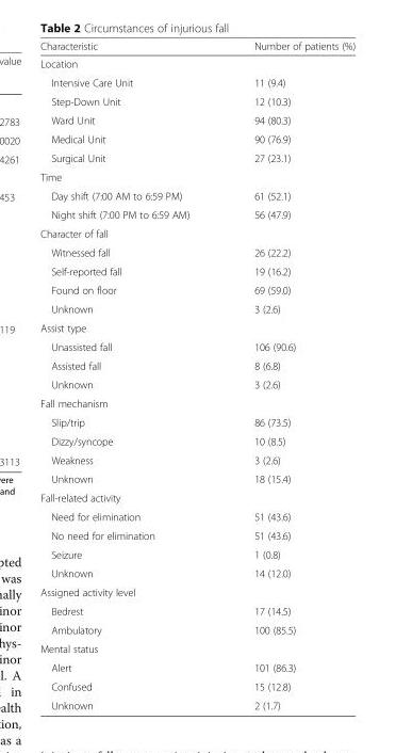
<table><thead><tr><td>Characteristic</td><td>Number of patients (%)</td></tr></thead><tbody><tr><td colspan="2">Location</td></tr><tr><td>Intensive Care Unit</td><td>11 (9.4)</td></tr><tr><td>Step-Down Unit</td><td>12 (10.3)</td></tr><tr><td>Ward Unit</td><td>94 (80.3)</td></tr><tr><td>Medical Unit</td><td>90 (76.9)</td></tr><tr><td>Surgical Unit</td><td>27 (23.1)</td></tr><tr><td colspan="2">Time</td></tr><tr><td>Day shift (7:00 AM to 6:59 PM)</td><td>61 (52.1)</td></tr><tr><td>Night shift (7:00 PM to 6:59 AM)</td><td>56 (47.9)</td></tr><tr><td colspan="2">Character of fall</td></tr><tr><td>Witnessed fall</td><td>26 (22.2)</td></tr><tr><td>Self-reported fall</td><td>19 (16.2)</td></tr><tr><td>Found on floor</td><td>69 (59.0)</td></tr><tr><td>Unknown</td><td>3 (2.6)</td></tr><tr><td colspan="2">Assist type</td></tr><tr><td>Unassisted fall</td><td>106 (90.6)</td></tr><tr><td>Assisted fall</td><td>8 (6.8)</td></tr><tr><td>Unknown</td><td>3 (2.6)</td></tr><tr><td colspan="2">Fall mechanism</td></tr><tr><td>Slip/trip</td><td>86 (73.5)</td></tr><tr><td>Dizzy/syncope</td><td>10 (8.5)</td></tr><tr><td>Weakness</td><td>3 (2.6)</td></tr><tr><td>Unknown</td><td>18 (15.4)</td></tr><tr><td colspan="2">Fall-related activity</td></tr><tr><td>Need for elimination</td><td>51 (43.6)</td></tr><tr><td>No need for elimination</td><td>51 (43.6)</td></tr><tr><td>Seizure</td><td>1 (0.8)</td></tr><tr><td>Unknown</td><td>14 (12.0)</td></tr><tr><td colspan="2">Assigned activity level</td></tr><tr><td>Bedrest</td><td>17 (14.5)</td></tr><tr><td>Ambulatory</td><td>100 (85.5)</td></tr><tr><td colspan="2">Mental status</td></tr><tr><td>Alert</td><td>101 (86.3)</td></tr><tr><td>Confused</td><td>15 (12.8)</td></tr><tr><td>Unknown</td><td>2 (1.7)</td></tr></tbody></table>